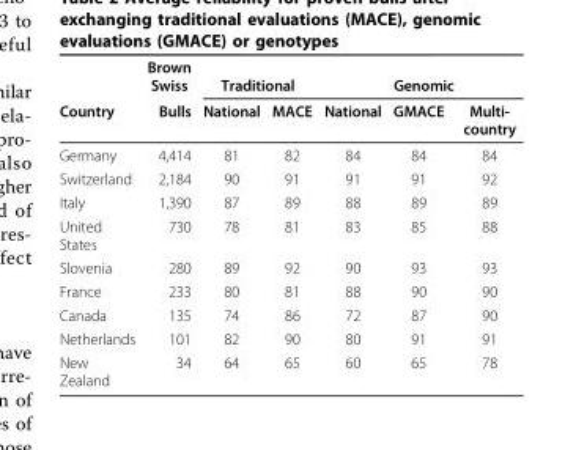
<table><thead><tr><td rowspan="2">Country</td><td rowspan="2">Brown Swiss Bulls</td><td colspan="2">Traditional</td><td colspan="3">Genomic</td></tr><tr><td>National</td><td>MACE</td><td>National</td><td>GMACE</td><td>Multi- country</td></tr></thead><tbody><tr><td>Germany</td><td>4,414</td><td>81</td><td>82</td><td>84</td><td>84</td><td>84</td></tr><tr><td>Switzerland</td><td>2,184</td><td>90</td><td>91</td><td>91</td><td>91</td><td>92</td></tr><tr><td>Italy</td><td>1,390</td><td>87</td><td>89</td><td>88</td><td>89</td><td>89</td></tr><tr><td>United States</td><td>730</td><td>78</td><td>81</td><td>83</td><td>85</td><td>88</td></tr><tr><td>Slovenia</td><td>280</td><td>89</td><td>92</td><td>90</td><td>93</td><td>93</td></tr><tr><td>France</td><td>233</td><td>80</td><td>81</td><td>88</td><td>90</td><td>90</td></tr><tr><td>Canada</td><td>135</td><td>74</td><td>86</td><td>72</td><td>87</td><td>90</td></tr><tr><td>Netherlands</td><td>101</td><td>82</td><td>90</td><td>80</td><td>91</td><td>91</td></tr><tr><td>New Zealand</td><td>34</td><td>64</td><td>65</td><td>60</td><td>65</td><td>78</td></tr></tbody></table>